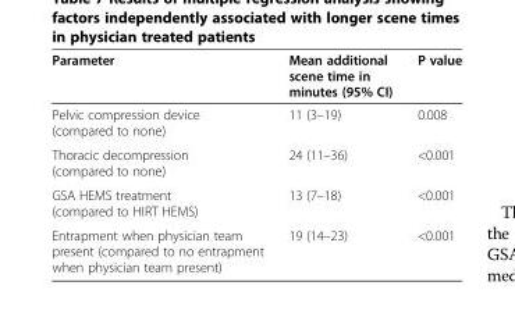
<table><thead><tr><td>Parameter</td><td>Mean additional scene time in minutes (95% CI)</td><td>P value</td></tr></thead><tbody><tr><td>Pelvic compression device (compared to none)</td><td>11 (3–19)</td><td>0.008</td></tr><tr><td>Thoracic decompression (compared to none)</td><td>24 (11–36)</td><td>&lt;0.001</td></tr><tr><td>GSA HEMS treatment (compared to HIRT HEMS)</td><td>13 (7–18)</td><td>&lt;0.001</td></tr><tr><td>Entrapment when physician team present (compared to no entrapment when physician team present)</td><td>19 (14–23)</td><td>&lt;0.001</td></tr></tbody></table>